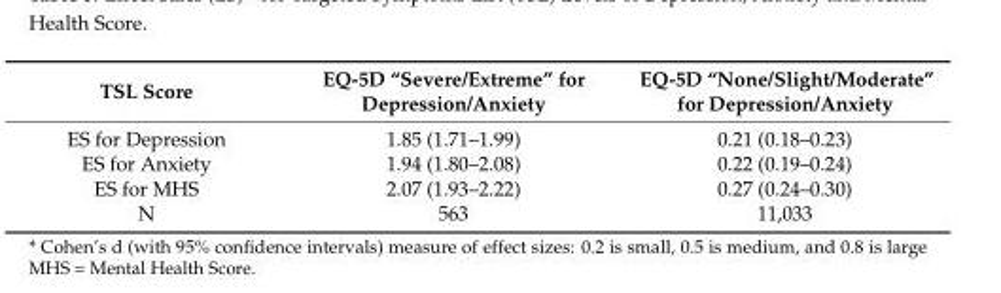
<table><thead><tr><td>TSL Score</td><td>EQ-5D “Severe/Extreme” for Depression/Anxiety</td><td>EQ-5D “None/Slight/Moderate” for Depression/Anxiety</td></tr></thead><tbody><tr><td>ES for Depression</td><td>1.85 (1.71–1.99)</td><td>0.21 (0.18–0.23)</td></tr><tr><td>ES for Anxiety</td><td>1.94 (1.80–2.08)</td><td>0.22 (0.19–0.24)</td></tr><tr><td>ES for MHS</td><td>2.07 (1.93–2.22)</td><td>0.27 (0.24–0.30)</td></tr><tr><td>N</td><td>563</td><td>11,033</td></tr></tbody></table>